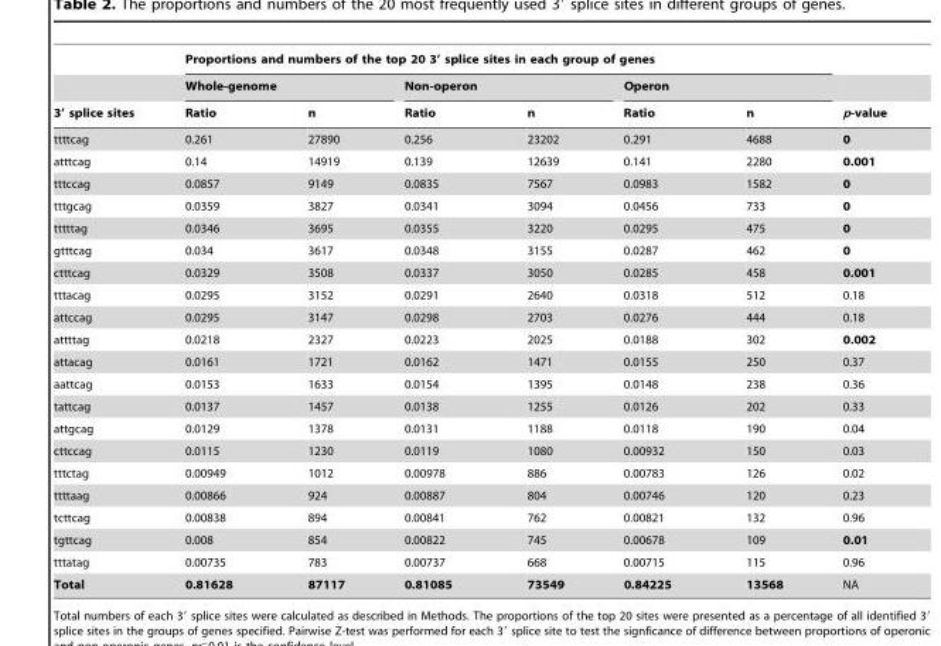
<table><thead><tr><td rowspan="3">3’ splice sites</td><td colspan="6">Proportions and numbers of the top 20 3’ splice sites in each group of genes</td><td rowspan="3">p-value</td></tr><tr><td colspan="2">Whole-genome</td><td colspan="2">Non-operon</td><td colspan="2">Operon</td></tr><tr><td>Ratio</td><td>n</td><td>Ratio</td><td>n</td><td>Ratio</td><td>n</td></tr></thead><tbody><tr><td>ttttcag</td><td>0.261</td><td>27890</td><td>0.256</td><td>23202</td><td>0.291</td><td>4688</td><td>0</td></tr><tr><td>atttcag</td><td>0.14</td><td>14919</td><td>0.139</td><td>12639</td><td>0.141</td><td>2280</td><td>0.001</td></tr><tr><td>tttccag</td><td>0.0857</td><td>9149</td><td>0.0835</td><td>7567</td><td>0.0983</td><td>1582</td><td>0</td></tr><tr><td>tttgcag</td><td>0.0359</td><td>3827</td><td>0.0341</td><td>3094</td><td>0.0456</td><td>733</td><td>0</td></tr><tr><td>tttttag</td><td>0.0346</td><td>3695</td><td>0.0355</td><td>3220</td><td>0.0295</td><td>475</td><td>0</td></tr><tr><td>gtttcag</td><td>0.034</td><td>3617</td><td>0.0348</td><td>3155</td><td>0.0287</td><td>462</td><td>0</td></tr><tr><td>ctttcag</td><td>0.0329</td><td>3508</td><td>0.0337</td><td>3050</td><td>0.0285</td><td>458</td><td>0.001</td></tr><tr><td>tttacag</td><td>0.0295</td><td>3152</td><td>0.0291</td><td>2640</td><td>0.0318</td><td>512</td><td>0.18</td></tr><tr><td>attccag</td><td>0.0295</td><td>3147</td><td>0.0298</td><td>2703</td><td>0.0276</td><td>444</td><td>0.18</td></tr><tr><td>attttag</td><td>0.0218</td><td>2327</td><td>0.0223</td><td>2025</td><td>0.0188</td><td>302</td><td>0.002</td></tr><tr><td>attacag</td><td>0.0161</td><td>1721</td><td>0.0162</td><td>1471</td><td>0.0155</td><td>250</td><td>0.37</td></tr><tr><td>aattcag</td><td>0.0153</td><td>1633</td><td>0.0154</td><td>1395</td><td>0.0148</td><td>238</td><td>0.36</td></tr><tr><td>tattcag</td><td>0.0137</td><td>1457</td><td>0.0138</td><td>1255</td><td>0.0126</td><td>202</td><td>0.33</td></tr><tr><td>attgcag</td><td>0.0129</td><td>1378</td><td>0.0131</td><td>1188</td><td>0.0118</td><td>190</td><td>0.04</td></tr><tr><td>cttccag</td><td>0.0115</td><td>1230</td><td>0.0119</td><td>1080</td><td>0.00932</td><td>150</td><td>0.03</td></tr><tr><td>tttctag</td><td>0.00949</td><td>1012</td><td>0.00978</td><td>886</td><td>0.00783</td><td>126</td><td>0.02</td></tr><tr><td>ttttaag</td><td>0.00866</td><td>924</td><td>0.00887</td><td>804</td><td>0.00746</td><td>120</td><td>0.23</td></tr><tr><td>tcttcag</td><td>0.00838</td><td>894</td><td>0.00841</td><td>762</td><td>0.00821</td><td>132</td><td>0.96</td></tr><tr><td>tgttcag</td><td>0.008</td><td>854</td><td>0.00822</td><td>745</td><td>0.00678</td><td>109</td><td>0.01</td></tr><tr><td>tttatag</td><td>0.00735</td><td>783</td><td>0.00737</td><td>668</td><td>0.00715</td><td>115</td><td>0.96</td></tr><tr><td>Total</td><td>0.81628</td><td>87117</td><td>0.81085</td><td>73549</td><td>0.84225</td><td>13568</td><td>NA</td></tr></tbody></table>